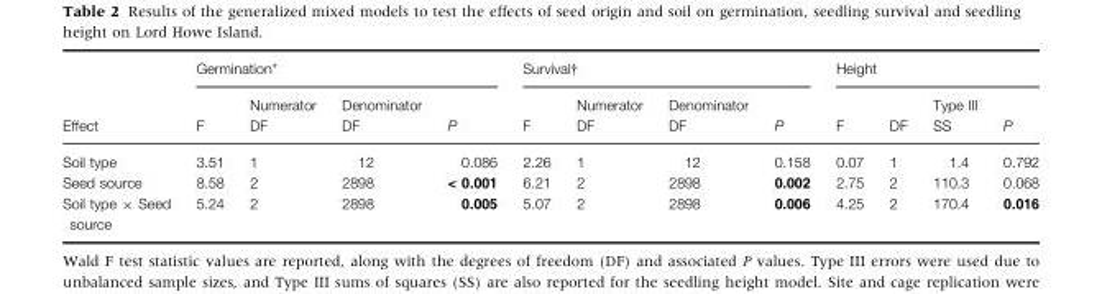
<table><thead><tr><td rowspan="2">Effect</td><td colspan="4">Germination*</td><td colspan="4">Survival†</td><td colspan="4">Height</td></tr><tr><td>F</td><td>Numerator DF</td><td>Denominator DF</td><td>P</td><td>F</td><td>Numerator DF</td><td>Denominator DF</td><td>P</td><td>F</td><td>DF</td><td>Type III SS</td><td>P</td></tr></thead><tbody><tr><td>Soil type</td><td>3.51</td><td>1</td><td>12</td><td>0.086</td><td>2.26</td><td>1</td><td>12</td><td>0.158</td><td>0.07</td><td>1</td><td>1.4</td><td>0.792</td></tr><tr><td>Seed source</td><td>8.58</td><td>2</td><td>2898</td><td>&lt; 0.001</td><td>6.21</td><td>2</td><td>2898</td><td>0.002</td><td>2.75</td><td>2</td><td>110.3</td><td>0.068</td></tr><tr><td>Soil type × Seed source</td><td>5.24</td><td>2</td><td>2898</td><td>0.005</td><td>5.07</td><td>2</td><td>2898</td><td>0.006</td><td>4.25</td><td>2</td><td>170.4</td><td>0.016</td></tr></tbody></table>